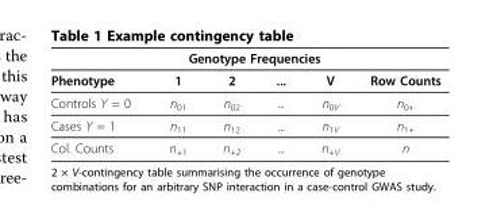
<table><thead><tr><td rowspan="2">Phenotype</td><td colspan="4">Genotype Frequencies</td><td rowspan="2">Row Counts</td></tr><tr><td>1</td><td>2</td><td>...</td><td>V</td></tr></thead><tbody><tr><td>Controls Y = 0</td><td>n<sub>01</sub></td><td>n<sub>02</sub></td><td>...</td><td>n<sub>0V</sub></td><td>n<sub>0+</sub></td></tr><tr><td>Cases Y = 1</td><td>n<sub>11</sub></td><td>n<sub>12</sub></td><td>...</td><td>n<sub>1V</sub></td><td>n<sub>1+</sub></td></tr><tr><td>Col. Counts</td><td>n<sub>+1</sub></td><td>n<sub>+2</sub></td><td>...</td><td>n<sub>+V</sub></td><td>n</td></tr></tbody></table>